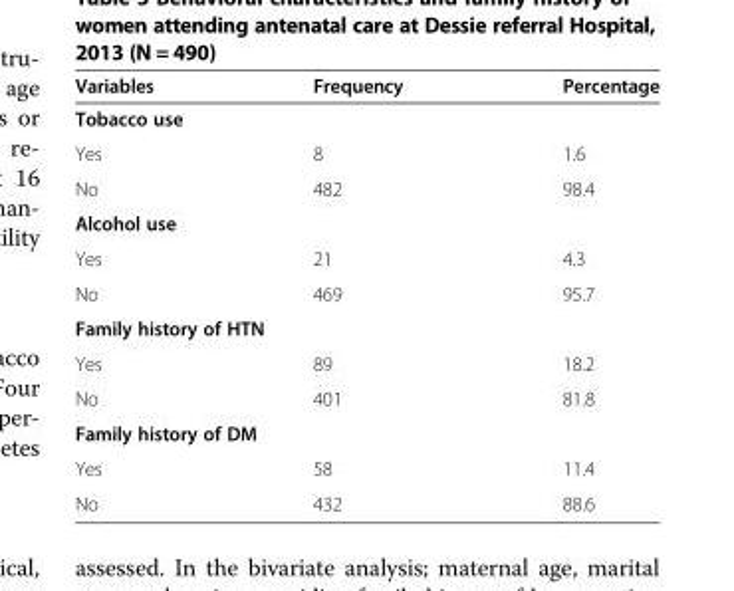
<table><thead><tr><td>Variables</td><td>Frequency</td><td>Percentage</td></tr></thead><tbody><tr><td colspan="3">Tobacco use</td></tr><tr><td>Yes</td><td>8</td><td>1.6</td></tr><tr><td>No</td><td>482</td><td>98.4</td></tr><tr><td colspan="3">Alcohol use</td></tr><tr><td>Yes</td><td>21</td><td>4.3</td></tr><tr><td>No</td><td>469</td><td>95.7</td></tr><tr><td colspan="3">Family history of HTN</td></tr><tr><td>Yes</td><td>89</td><td>18.2</td></tr><tr><td>No</td><td>401</td><td>81.8</td></tr><tr><td colspan="3">Family history of DM</td></tr><tr><td>Yes</td><td>58</td><td>11.4</td></tr><tr><td>No</td><td>432</td><td>88.6</td></tr></tbody></table>